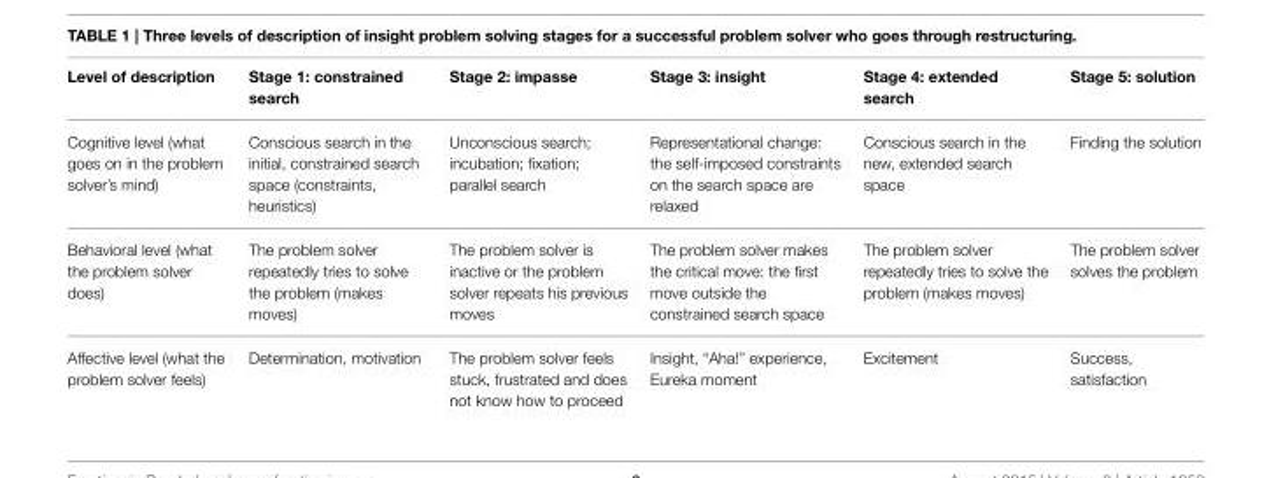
<table><thead><tr><td>Level of description</td><td>Stage 1: constrained search</td><td>Stage 2: impasse</td><td>Stage 3: insight</td><td>Stage 4: extended search</td><td>Stage 5: solution</td></tr></thead><tbody><tr><td>Cognitive level (what goes on in the problem solver’s mind)</td><td>Conscious search in the initial, constrained search space (constraints, heuristics)</td><td>Unconscious search; incubation; fixation; parallel search</td><td>Representational change: the self-imposed constraints on the search space are relaxed</td><td>Conscious search in the new, extended search space</td><td>Finding the solution</td></tr><tr><td>Behavioral level (what the problem solver does)</td><td>The problem solver repeatedly tries to solve the problem (makes moves)</td><td>The problem solver is inactive or the problem solver repeats his previous moves</td><td>The problem solver makes the critical move: the first move outside the constrained search space</td><td>The problem solver repeatedly tries to solve the problem (makes moves)</td><td>The problem solver solves the problem</td></tr><tr><td>Affective level (what the problem solver feels)</td><td>Determination, motivation</td><td>The problem solver feels stuck, frustrated and does not know how to proceed</td><td>Insight, “Aha!” experience, Eureka moment</td><td>Excitement</td><td>Success, satisfaction</td></tr></tbody></table>